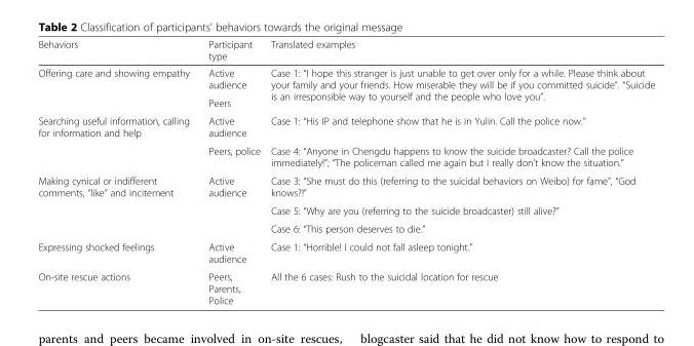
<table><thead><tr><td>Behaviors</td><td>Participant type</td><td>Translated examples</td></tr></thead><tbody><tr><td rowspan="2">Offering care and showing empathy</td><td>Active audience</td><td rowspan="2">Case 1: “I hope this stranger is just unable to get over only for a while. Please think about your family and your friends. How miserable they will be if you committed suicide”. “Suicide is an irresponsible way to yourself and the people who love you”.</td></tr><tr><td>Peers</td></tr><tr><td rowspan="2">Searching useful information, calling for information and help</td><td>Active audience</td><td>Case 1: “His IP and telephone show that he is in Yulin. Call the police now.”</td></tr><tr><td>Peers, police</td><td>Case 4: “Anyone in Chengdu happens to know the suicide broadcaster? Call the police immediately!”; “The policeman called me again but I really don’t know the situation.”</td></tr><tr><td rowspan="3">Making cynical or indifferent comments, “like” and incitement</td><td rowspan="3">Active audience</td><td>Case 3: “She must do this (referring to the suicidal behaviors on Weibo) for fame”, “God knows?!”</td></tr><tr><td>Case 5: “Why are you (referring to the suicide broadcaster) still alive?”</td></tr><tr><td>Case 6: “This person deserves to die.”</td></tr><tr><td>Expressing shocked feelings</td><td>Active audience</td><td>Case 1: “Horrible! I could not fall asleep tonight.”</td></tr><tr><td>On-site rescue actions</td><td>Peers, Parents, Police</td><td>All the 6 cases: Rush to the suicidal location for rescue</td></tr></tbody></table>